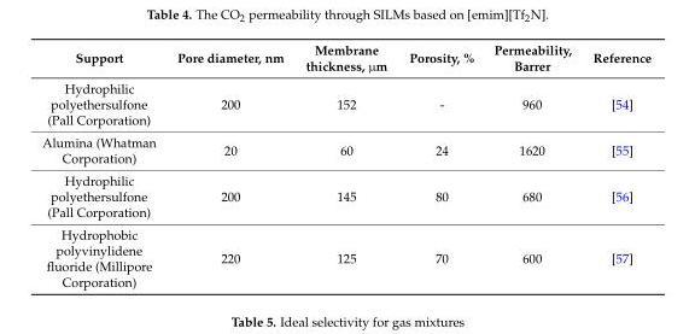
<table><thead><tr><td>Support</td><td>Pore diameter, nm</td><td>Membrane thickness, µm</td><td>Porosity, %</td><td>Permeability, Barrer</td><td>Reference</td></tr></thead><tbody><tr><td>Hydrophilic polyethersulfone (Pall Corporation)</td><td>200</td><td>152</td><td>-</td><td>960</td><td>[54]</td></tr><tr><td>Alumina (Whatman Corporation)</td><td>20</td><td>60</td><td>24</td><td>1620</td><td>[55]</td></tr><tr><td>Hydrophilic polyethersulfone (Pall Corporation)</td><td>200</td><td>145</td><td>80</td><td>680</td><td>[56]</td></tr><tr><td>Hydrophobic polyvinylidene fluoride (Millipore Corporation)</td><td>220</td><td>125</td><td>70</td><td>600</td><td>[57]</td></tr></tbody></table>